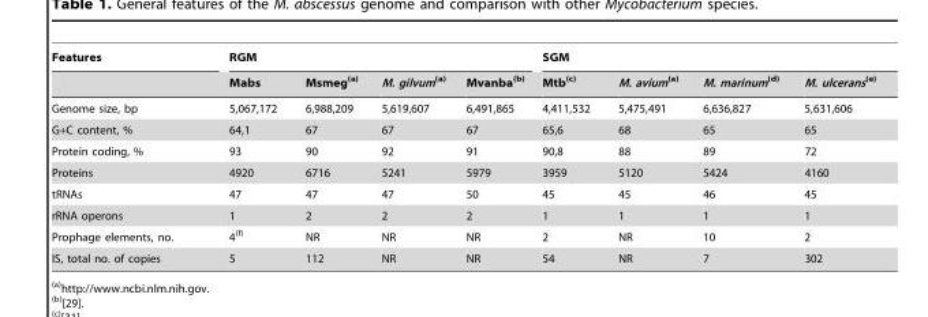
<table><thead><tr><td rowspan="2">Features</td><td colspan="4">RGM</td><td colspan="4">SGM</td></tr><tr><td>Mabs</td><td>Msmeg(a)</td><td>M. gilvum(a)</td><td>Mvanba(b)</td><td>Mtb(c)</td><td>M. avium(a)</td><td>M. marinum(d)</td><td>M. ulcerans(e)</td></tr></thead><tbody><tr><td>Genome size, bp</td><td>5,067,172</td><td>6,988,209</td><td>5,619,607</td><td>6,491,865</td><td>4,411,532</td><td>5,475,491</td><td>6,636,827</td><td>5,631,606</td></tr><tr><td>G+C content, %</td><td>64,1</td><td>67</td><td>67</td><td>67</td><td>65,6</td><td>68</td><td>65</td><td>65</td></tr><tr><td>Protein coding, %</td><td>93</td><td>90</td><td>92</td><td>91</td><td>90,8</td><td>88</td><td>89</td><td>72</td></tr><tr><td>Proteins</td><td>4920</td><td>6716</td><td>5241</td><td>5979</td><td>3959</td><td>5120</td><td>5424</td><td>4160</td></tr><tr><td>tRNAs</td><td>47</td><td>47</td><td>47</td><td>50</td><td>45</td><td>45</td><td>46</td><td>45</td></tr><tr><td>rRNA operons</td><td>1</td><td>2</td><td>2</td><td>2</td><td>1</td><td>1</td><td>1</td><td>1</td></tr><tr><td>Prophage elements, no.</td><td>4(f)</td><td>NR</td><td>NR</td><td>NR</td><td>2</td><td>NR</td><td>10</td><td>2</td></tr><tr><td>IS, total no. of copies</td><td>5</td><td>112</td><td>NR</td><td>NR</td><td>54</td><td>NR</td><td>7</td><td>302</td></tr></tbody></table>